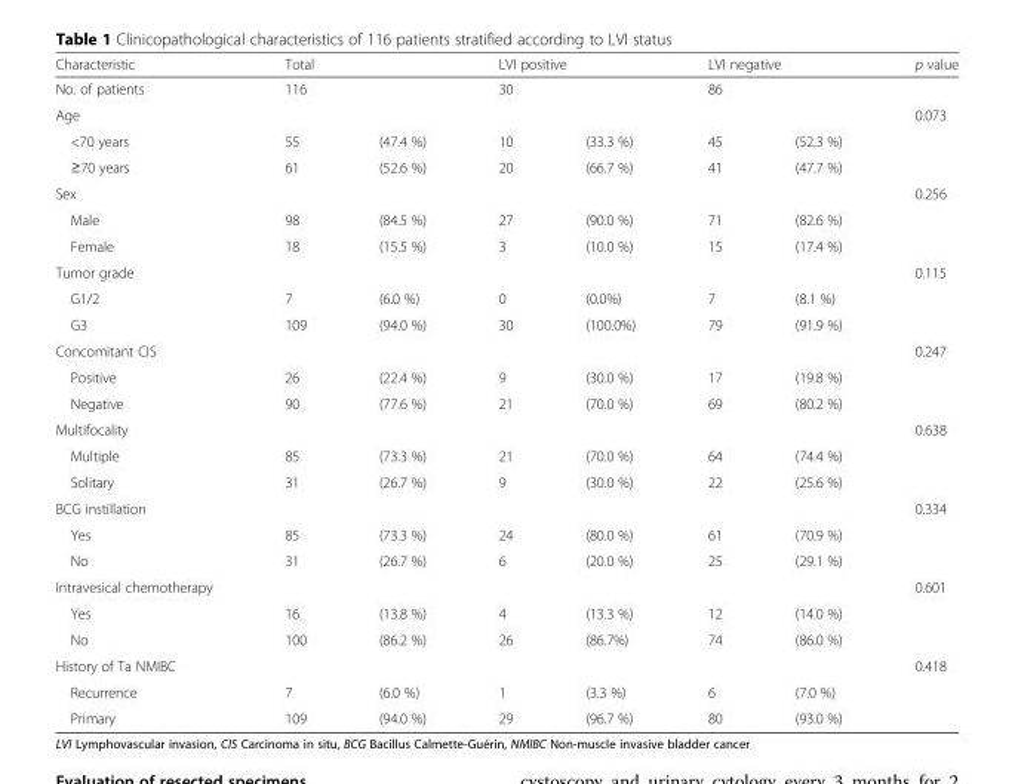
<table><thead><tr><td rowspan="2">Characteristic No. of patients</td><td colspan="2">Total</td><td colspan="2">LVI positive</td><td colspan="2">LVI negative</td><td rowspan="2">p value</td></tr><tr><td>116</td><td></td><td>30</td><td></td><td>86</td><td></td></tr></thead><tbody><tr><td>Age</td><td></td><td></td><td></td><td></td><td></td><td></td><td>0.073</td></tr><tr><td>&lt;70 years</td><td>55</td><td>(47.4 %)</td><td>10</td><td>(33.3 %)</td><td>45</td><td>(52.3 %)</td><td></td></tr><tr><td>≥70 years</td><td>61</td><td>(52.6 %)</td><td>20</td><td>(66.7 %)</td><td>41</td><td>(47.7 %)</td><td></td></tr><tr><td>Sex</td><td></td><td></td><td></td><td></td><td></td><td></td><td>0.256</td></tr><tr><td>Male</td><td>98</td><td>(84.5 %)</td><td>27</td><td>(90.0 %)</td><td>71</td><td>(82.6 %)</td><td></td></tr><tr><td>Female</td><td>18</td><td>(15.5 %)</td><td>3</td><td>(10.0 %)</td><td>15</td><td>(17.4 %)</td><td></td></tr><tr><td>Tumor grade</td><td></td><td></td><td></td><td></td><td></td><td></td><td>0.115</td></tr><tr><td>G1/2</td><td>7</td><td>(6.0 %)</td><td>0</td><td>(0.0%)</td><td>7</td><td>(8.1 %)</td><td></td></tr><tr><td>G3</td><td>109</td><td>(94.0 %)</td><td>30</td><td>(100.0%)</td><td>79</td><td>(91.9 %)</td><td></td></tr><tr><td>Concomitant CIS</td><td></td><td></td><td></td><td></td><td></td><td></td><td>0.247</td></tr><tr><td>Positive</td><td>26</td><td>(22.4 %)</td><td>9</td><td>(30.0 %)</td><td>17</td><td>(19.8 %)</td><td></td></tr><tr><td>Negative</td><td>90</td><td>(77.6 %)</td><td>21</td><td>(70.0 %)</td><td>69</td><td>(80.2 %)</td><td></td></tr><tr><td>Multifocality</td><td></td><td></td><td></td><td></td><td></td><td></td><td>0.638</td></tr><tr><td>Multiple</td><td>85</td><td>(73.3 %)</td><td>21</td><td>(70.0 %)</td><td>64</td><td>(74.4 %)</td><td></td></tr><tr><td>Solitary</td><td>31</td><td>(26.7 %)</td><td>9</td><td>(30.0 %)</td><td>22</td><td>(25.6 %)</td><td></td></tr><tr><td>BCG instillation</td><td></td><td></td><td></td><td></td><td></td><td></td><td>0.334</td></tr><tr><td>Yes</td><td>85</td><td>(73.3 %)</td><td>24</td><td>(80.0 %)</td><td>61</td><td>(70.9 %)</td><td></td></tr><tr><td>No</td><td>31</td><td>(26.7 %)</td><td>6</td><td>(20.0 %)</td><td>25</td><td>(29.1 %)</td><td></td></tr><tr><td>Intravesical chemotherapy</td><td></td><td></td><td></td><td></td><td></td><td></td><td>0.601</td></tr><tr><td>Yes</td><td>16</td><td>(13.8 %)</td><td>4</td><td>(13.3 %)</td><td>12</td><td>(14.0 %)</td><td></td></tr><tr><td>No</td><td>100</td><td>(86.2 %)</td><td>26</td><td>(86.7%)</td><td>74</td><td>(86.0 %)</td><td></td></tr><tr><td>History of Ta NMIBC</td><td></td><td></td><td></td><td></td><td></td><td></td><td>0.418</td></tr><tr><td>Recurrence</td><td>7</td><td>(6.0 %)</td><td>1</td><td>(3.3 %)</td><td>6</td><td>(7.0 %)</td><td></td></tr><tr><td>Primary</td><td>109</td><td>(94.0 %)</td><td>29</td><td>(96.7 %)</td><td>80</td><td>(93.0 %)</td><td></td></tr></tbody></table>